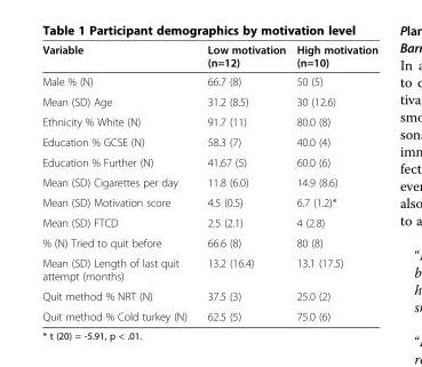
<table><thead><tr><td>Variable</td><td>Low motivation (n=12)</td><td>High motivation (n=10)</td></tr></thead><tbody><tr><td>Male % (N)</td><td>66.7 (8)</td><td>50 (5)</td></tr><tr><td>Mean (SD) Age</td><td>31.2 (8.5)</td><td>30 (12.6)</td></tr><tr><td>Ethnicity % White (N)</td><td>91.7 (11)</td><td>80.0 (8)</td></tr><tr><td>Education % GCSE (N)</td><td>58.3 (7)</td><td>40.0 (4)</td></tr><tr><td>Education % Further (N)</td><td>41.67 (5)</td><td>60.0 (6)</td></tr><tr><td>Mean (SD) Cigarettes per day</td><td>11.8 (6.0)</td><td>14.9 (8.6)</td></tr><tr><td>Mean (SD) Motivation score</td><td>4.5 (0.5)</td><td>6.7 (1.2)*</td></tr><tr><td>Mean (SD) FTCD</td><td>2.5 (2.1)</td><td>4 (2.8)</td></tr><tr><td>% (N) Tried to quit before</td><td>66.6 (8)</td><td>80 (8)</td></tr><tr><td>Mean (SD) Length of last quit attempt (months)</td><td>13.2 (16.4)</td><td>13.1 (17.5)</td></tr><tr><td>Quit method % NRT (N)</td><td>37.5 (3)</td><td>25.0 (2)</td></tr><tr><td>Quit method % Cold turkey (N)</td><td>62.5 (5)</td><td>75.0 (6)</td></tr></tbody></table>